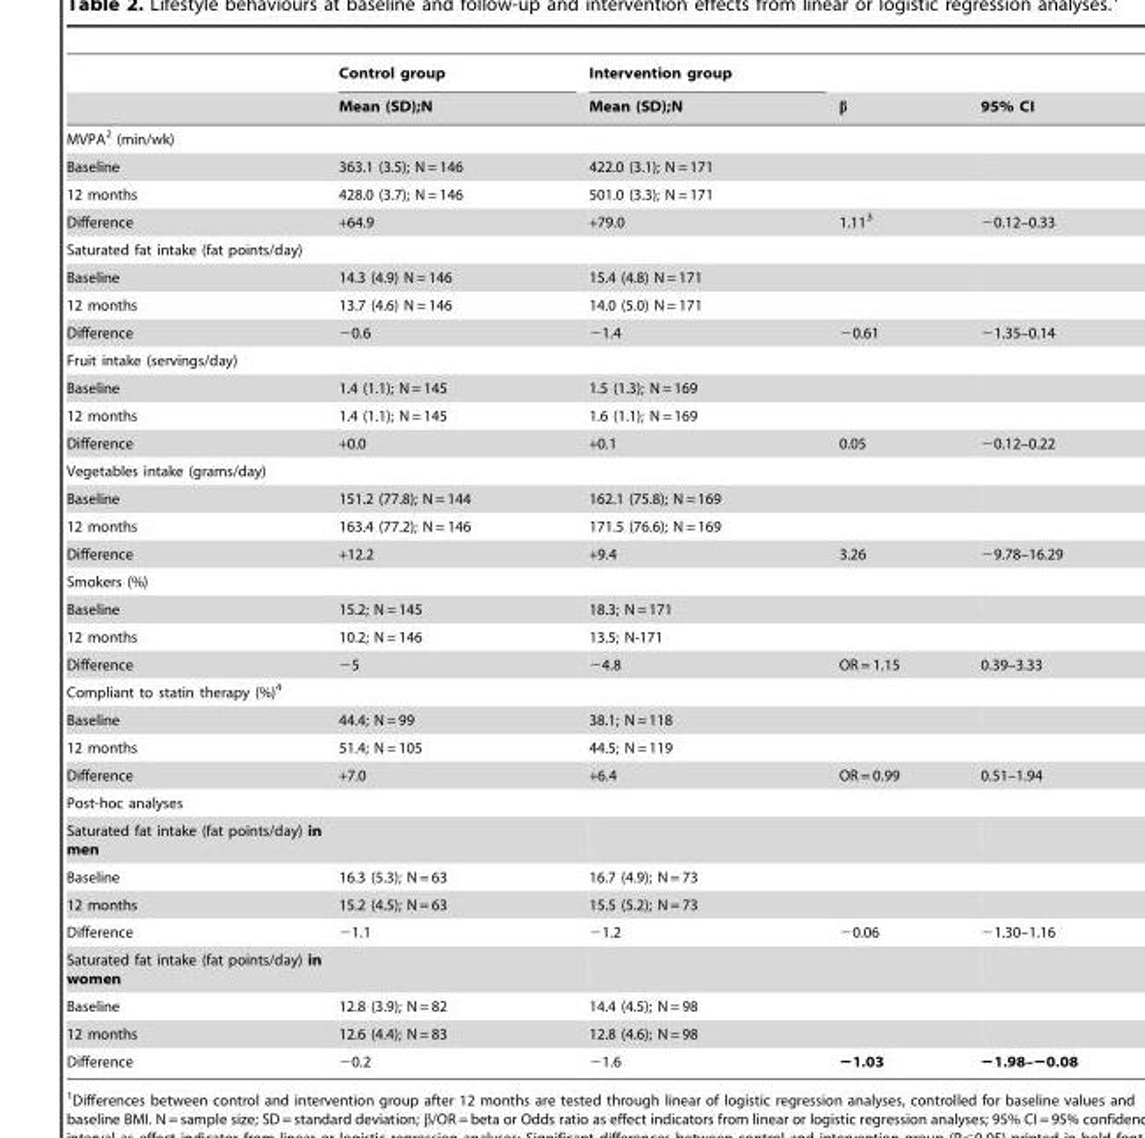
<table><thead><tr><td rowspan="2"></td><td rowspan="2">Control group Mean (SD);N</td><td rowspan="2">Intervention group Mean (SD);N</td><td rowspan="2">β</td><td rowspan="2">95% CI</td></tr><tr></tr></thead><tbody><tr><td colspan="5">MVPA<sup>2</sup> (min/wk)</td></tr><tr><td>Baseline</td><td>363.1 (3.5); N = 146</td><td>422.0 (3.1); N = 171</td><td></td><td></td></tr><tr><td>12 months</td><td>428.0 (3.7); N = 146</td><td>501.0 (3.3); N = 171</td><td></td><td></td></tr><tr><td>Difference</td><td>+64.9</td><td>+79.0</td><td>1.11<sup>3</sup></td><td>−0.12–0.33</td></tr><tr><td colspan="5">Saturated fat intake (fat points/day)</td></tr><tr><td>Baseline</td><td>14.3 (4.9) N = 146</td><td>15.4 (4.8) N = 171</td><td></td><td></td></tr><tr><td>12 months</td><td>13.7 (4.6) N = 146</td><td>14.0 (5.0) N = 171</td><td></td><td></td></tr><tr><td>Difference</td><td>−0.6</td><td>−1.4</td><td>−0.61</td><td>−1.35–0.14</td></tr><tr><td colspan="5">Fruit intake (servings/day)</td></tr><tr><td>Baseline</td><td>1.4 (1.1); N = 145</td><td>1.5 (1.3); N = 169</td><td></td><td></td></tr><tr><td>12 months</td><td>1.4 (1.1); N = 145</td><td>1.6 (1.1); N = 169</td><td></td><td></td></tr><tr><td>Difference</td><td>+0.0</td><td>+0.1</td><td>0.05</td><td>−0.12–0.22</td></tr><tr><td colspan="5">Vegetables intake (grams/day)</td></tr><tr><td>Baseline</td><td>151.2 (77.8); N = 144</td><td>162.1 (75.8); N = 169</td><td></td><td></td></tr><tr><td>12 months</td><td>163.4 (77.2); N = 146</td><td>171.5 (76.6); N = 169</td><td></td><td></td></tr><tr><td>Difference</td><td>+12.2</td><td>+9.4</td><td>3.26</td><td>−9.78–16.29</td></tr><tr><td colspan="5">Smokers (%)</td></tr><tr><td>Baseline</td><td>15.2; N = 145</td><td>18.3; N = 171</td><td></td><td></td></tr><tr><td>12 months</td><td>10.2; N = 146</td><td>13.5; N-171</td><td></td><td></td></tr><tr><td>Difference</td><td>−5</td><td>−4.8</td><td>OR = 1.15</td><td>0.39–3.33</td></tr><tr><td colspan="5">Compliant to statin therapy (%)<sup>4</sup></td></tr><tr><td>Baseline</td><td>44.4; N = 99</td><td>38.1; N = 118</td><td></td><td></td></tr><tr><td>12 months</td><td>51.4; N = 105</td><td>44.5; N = 119</td><td></td><td></td></tr><tr><td>Difference</td><td>+7.0</td><td>+6.4</td><td>OR = 0.99</td><td>0.51–1.94</td></tr><tr><td colspan="5">Post-hoc analyses</td></tr><tr><td colspan="5">Saturated fat intake (fat points/day) in men</td></tr><tr><td>Baseline</td><td>16.3 (5.3); N = 63</td><td>16.7 (4.9); N = 73</td><td></td><td></td></tr><tr><td>12 months</td><td>15.2 (4.5); N = 63</td><td>15.5 (5.2); N = 73</td><td></td><td></td></tr><tr><td>Difference</td><td>−1.1</td><td>−1.2</td><td>−0.06</td><td>−1.30–1.16</td></tr><tr><td colspan="5">Saturated fat intake (fat points/day) in women</td></tr><tr><td>Baseline</td><td>12.8 (3.9); N = 82</td><td>14.4 (4.5); N = 98</td><td></td><td></td></tr><tr><td>12 months</td><td>12.6 (4.4); N = 83</td><td>12.8 (4.6); N = 98</td><td></td><td></td></tr><tr><td>Difference</td><td>−0.2</td><td>−1.6</td><td>−1.03</td><td>−1.98–−0.08</td></tr></tbody></table>